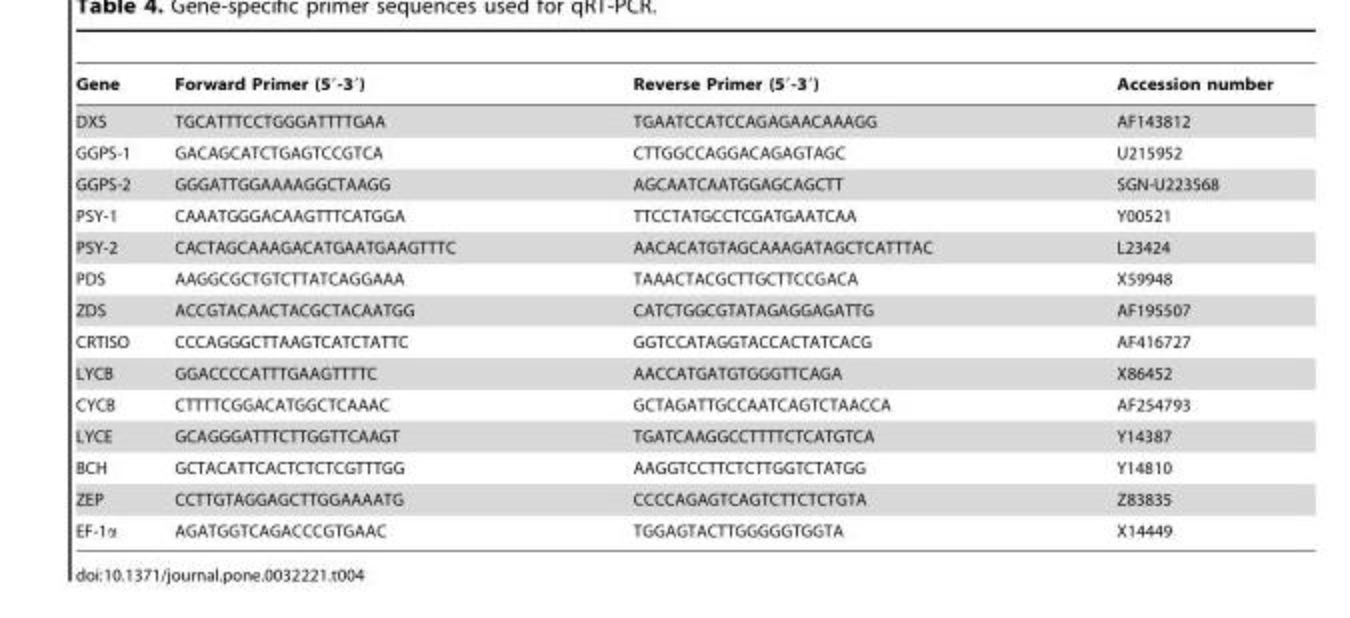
<table><thead><tr><td>Gene</td><td>Forward Primer (5′-3′)</td><td>Reverse Primer (5′-3′)</td><td>Accession number</td></tr></thead><tbody><tr><td>DXS</td><td>TGCATTTCCTGGGATTTTGAA</td><td>TGAATCCATCCAGAGAACAAAGG</td><td>AF143812</td></tr><tr><td>GGPS-1</td><td>GACAGCATCTGAGTCCGTCA</td><td>CTTGGCCAGGACAGAGTAGC</td><td>U215952</td></tr><tr><td>GGPS-2</td><td>GGGATTGGAAAAGGCTAAGG</td><td>AGCAATCAATGGAGCAGCTT</td><td>SGN-U223568</td></tr><tr><td>PSY-1</td><td>CAAATGGGACAAGTTTCATGGA</td><td>TTCCTATGCCTCGATGAATCAA</td><td>Y00521</td></tr><tr><td>PSY-2</td><td>CACTAGCAAAGACATGAATGAAGTTTC</td><td>AACACATGTAGCAAAGATAGCTCATTTAC</td><td>L23424</td></tr><tr><td>PDS</td><td>AAGGCGCTGTCTTATCAGGAAA</td><td>TAAACTACGCTTGCTTCCGACA</td><td>X59948</td></tr><tr><td>ZDS</td><td>ACCGTACAACTACGCTACAATGG</td><td>CATCTGGCGTATAGAGGAGATTG</td><td>AF195507</td></tr><tr><td>CRTISO</td><td>CCCAGGGCTTAAGTCATCTATTC</td><td>GGTCCATAGGTACCACTATCACG</td><td>AF416727</td></tr><tr><td>LYCB</td><td>GGACCCCATTTGAAGTTTTC</td><td>AACCATGATGTGGGTTCAGA</td><td>X86452</td></tr><tr><td>CYCB</td><td>CTTTTCGGACATGGCTCAAAC</td><td>GCTAGATTGCCAATCAGTCTAACCA</td><td>AF254793</td></tr><tr><td>LYCE</td><td>GCAGGGATTTCTTGGTTCAAGT</td><td>TGATCAAGGCCTTTTCTCATGTCA</td><td>Y14387</td></tr><tr><td>BCH</td><td>GCTACATTCACTCTCTCGTTTGG</td><td>AAGGTCCTTCTCTTGGTCTATGG</td><td>Y14810</td></tr><tr><td>ZEP</td><td>CCTTGTAGGAGCTTGGAAAATG</td><td>CCCCAGAGTCAGTCTTCTCTGTA</td><td>Z83835</td></tr><tr><td>EF-1α</td><td>AGATGGTCAGACCCGTGAAC</td><td>TGGAGTACTTGGGGGTGGTA</td><td>X14449</td></tr></tbody></table>